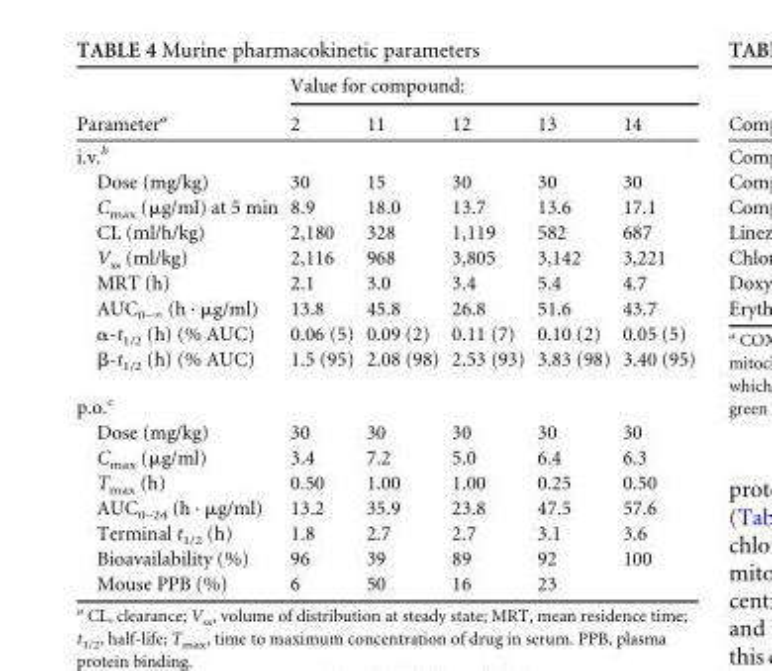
<table><thead><tr><td rowspan="2">Parameter<sup>a</sup></td><td colspan="5">Value for compound:</td></tr><tr><td>2</td><td>11</td><td>12</td><td>13</td><td>14</td></tr></thead><tbody><tr><td colspan="6">i.v.<sup>b</sup></td></tr><tr><td>Dose (mg/kg)</td><td>30</td><td>15</td><td>30</td><td>30</td><td>30</td></tr><tr><td>C<sub>max</sub> (μg/ml) at 5 min</td><td>8.9</td><td>18.0</td><td>13.7</td><td>13.6</td><td>17.1</td></tr><tr><td>CL (ml/h/kg)</td><td>2,180</td><td>328</td><td>1,119</td><td>582</td><td>687</td></tr><tr><td>V<sub>ss</sub> (ml/kg)</td><td>2,116</td><td>968</td><td>3,805</td><td>3,142</td><td>3,221</td></tr><tr><td>MRT (h)</td><td>2.1</td><td>3.0</td><td>3.4</td><td>5.4</td><td>4.7</td></tr><tr><td>AUC<sub>0–∞</sub> (h · μg/ml)</td><td>13.8</td><td>45.8</td><td>26.8</td><td>51.6</td><td>43.7</td></tr><tr><td>α-t<sub>1/2</sub> (h) (% AUC)</td><td>0.06 (5)</td><td>0.09 (2)</td><td>0.11 (7)</td><td>0.10 (2)</td><td>0.05 (5)</td></tr><tr><td>β-t<sub>1/2</sub> (h) (% AUC)</td><td>1.5 (95)</td><td>2.08 (98)</td><td>2.53 (93)</td><td>3.83 (98)</td><td>3.40 (95)</td></tr><tr><td colspan="6">p.o.<sup>c</sup></td></tr><tr><td>Dose (mg/kg)</td><td>30</td><td>30</td><td>30</td><td>30</td><td>30</td></tr><tr><td>C<sub>max</sub> (μg/ml)</td><td>3.4</td><td>7.2</td><td>5.0</td><td>6.4</td><td>6.3</td></tr><tr><td>T<sub>max</sub> (h)</td><td>0.50</td><td>1.00</td><td>1.00</td><td>0.25</td><td>0.50</td></tr><tr><td>AUC<sub>0–24</sub> (h · μg/ml)</td><td>13.2</td><td>35.9</td><td>23.8</td><td>47.5</td><td>57.6</td></tr><tr><td>Terminal t<sub>1/2</sub> (h)</td><td>1.8</td><td>2.7</td><td>2.7</td><td>3.1</td><td>3.6</td></tr><tr><td>Bioavailability (%)</td><td>96</td><td>39</td><td>89</td><td>92</td><td>100</td></tr><tr><td>Mouse PPB (%)</td><td>6</td><td>50</td><td>16</td><td>23</td><td></td></tr></tbody></table>